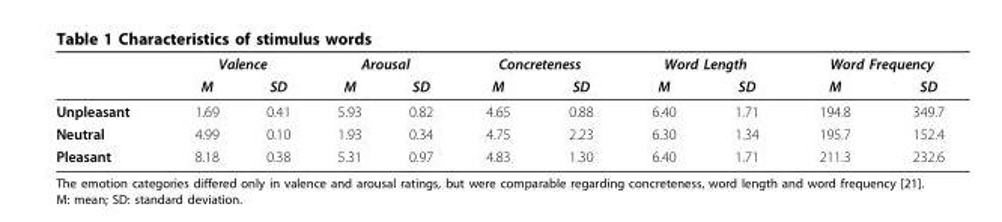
<table><thead><tr><td rowspan="2"></td><td colspan="2">Valence</td><td colspan="2">Arousal</td><td colspan="2">Concreteness</td><td colspan="2">Word Length</td><td colspan="2">Word Frequency</td></tr><tr><td>M</td><td>SD</td><td>M</td><td>SD</td><td>M</td><td>SD</td><td>M</td><td>SD</td><td>M</td><td>SD</td></tr></thead><tbody><tr><td>Unpleasant</td><td>1.69</td><td>0.41</td><td>5.93</td><td>0.82</td><td>4.65</td><td>0.88</td><td>6.40</td><td>1.71</td><td>194.8</td><td>349.7</td></tr><tr><td>Neutral</td><td>4.99</td><td>0.10</td><td>1.93</td><td>0.34</td><td>4.75</td><td>2.23</td><td>6.30</td><td>1.34</td><td>195.7</td><td>152.4</td></tr><tr><td>Pleasant</td><td>8.18</td><td>0.38</td><td>5.31</td><td>0.97</td><td>4.83</td><td>1.30</td><td>6.40</td><td>1.71</td><td>211.3</td><td>232.6</td></tr></tbody></table>